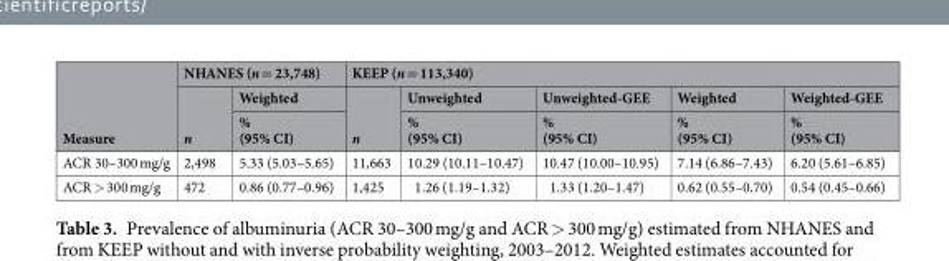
<table><thead><tr><td rowspan="3">Measure</td><td colspan="2">NHANES (n = 23,748)</td><td colspan="5">KEEP (n = 113,340)</td></tr><tr><td rowspan="2">n</td><td rowspan="2">Weighted % (95% CI)</td><td rowspan="2">n</td><td rowspan="2">Unweighted % (95% CI)</td><td rowspan="2">Unweighted-GEE % (95% CI)</td><td rowspan="2">Weighted % (95% CI)</td><td rowspan="2">Weighted-GEE % (95% CI)</td></tr><tr></tr></thead><tbody><tr><td>ACR 30–300 mg/g</td><td>2,498</td><td>5.33 (5.03–5.65)</td><td>11,663</td><td>10.29 (10.11–10.47)</td><td>10.47 (10.00–10.95)</td><td>7.14 (6.86–7.43)</td><td>6.20 (5.61–6.85)</td></tr><tr><td>ACR &gt; 300 mg/g</td><td>472</td><td>0.86 (0.77–0.96)</td><td>1,425</td><td>1.26 (1.19–1.32)</td><td>1.33 (1.20–1.47)</td><td>0.62 (0.55–0.70)</td><td>0.54 (0.45–0.66)</td></tr></tbody></table>